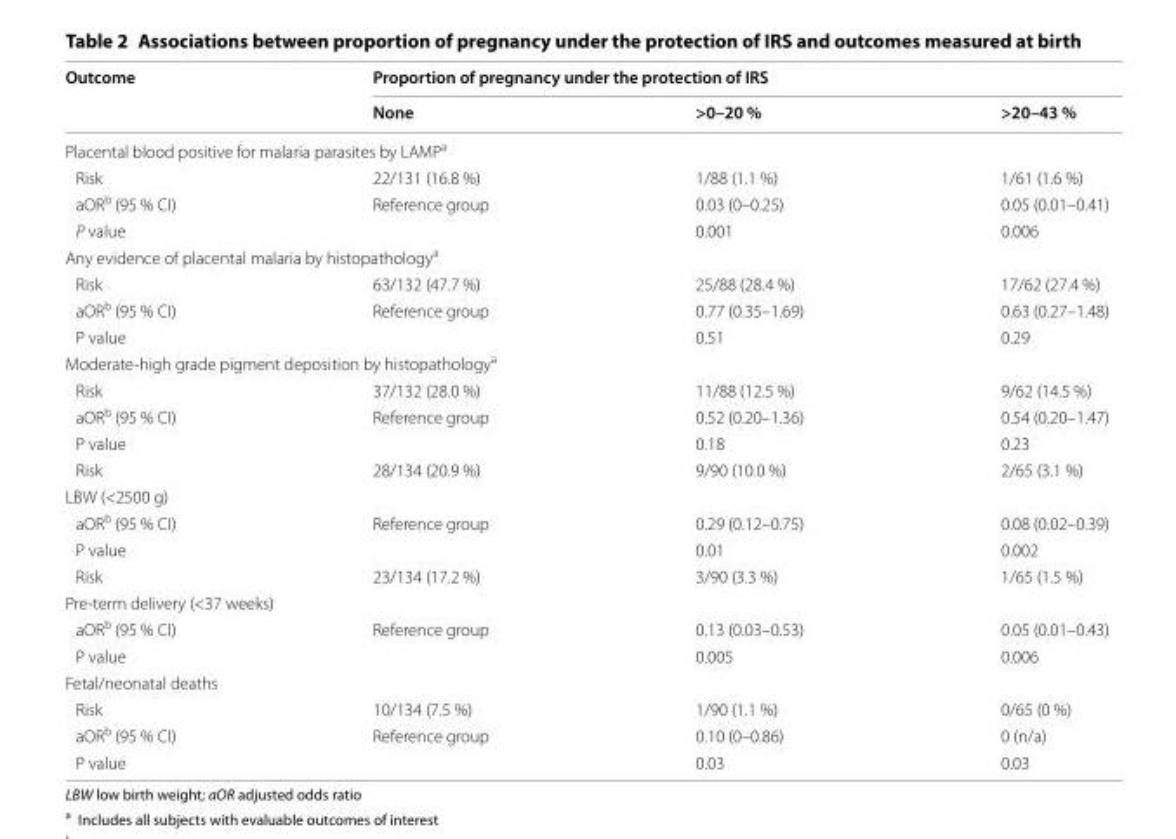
<table><thead><tr><td rowspan="2">Outcome</td><td colspan="3">Proportion of pregnancy under the protection of IRS</td></tr><tr><td>None</td><td>&gt;0–20 %</td><td>&gt;20–43 %</td></tr></thead><tbody><tr><td colspan="4">Placental blood positive for malaria parasites by LAMP<sup>a</sup></td></tr><tr><td>Risk</td><td>22/131 (16.8 %)</td><td>1/88 (1.1 %)</td><td>1/61 (1.6 %)</td></tr><tr><td>aOR<sup>b</sup> (95 % CI)</td><td rowspan="2">Reference group</td><td>0.03 (0–0.25)</td><td>0.05 (0.01–0.41)</td></tr><tr><td>P value</td><td>0.001</td><td>0.006</td></tr><tr><td colspan="4">Any evidence of placental malaria by histopathology<sup>a</sup></td></tr><tr><td>Risk</td><td>63/132 (47.7 %)</td><td>25/88 (28.4 %)</td><td>17/62 (27.4 %)</td></tr><tr><td>aOR<sup>b</sup> (95 % CI)</td><td rowspan="2">Reference group</td><td>0.77 (0.35–1.69)</td><td>0.63 (0.27–1.48)</td></tr><tr><td>P value</td><td>0.51</td><td>0.29</td></tr><tr><td colspan="4">Moderate-high grade pigment deposition by histopathology<sup>a</sup></td></tr><tr><td>Risk</td><td>37/132 (28.0 %)</td><td>11/88 (12.5 %)</td><td>9/62 (14.5 %)</td></tr><tr><td>aOR<sup>b</sup> (95 % CI)</td><td rowspan="2">Reference group</td><td>0.52 (0.20–1.36)</td><td>0.54 (0.20–1.47)</td></tr><tr><td>P value</td><td>0.18</td><td>0.23</td></tr><tr><td>Risk</td><td>28/134 (20.9 %)</td><td>9/90 (10.0 %)</td><td>2/65 (3.1 %)</td></tr><tr><td colspan="4">LBW (&lt;2500 g)</td></tr><tr><td>aOR<sup>b</sup> (95 % CI)</td><td rowspan="2">Reference group</td><td>0.29 (0.12–0.75)</td><td>0.08 (0.02–0.39)</td></tr><tr><td>P value</td><td>0.01</td><td>0.002</td></tr><tr><td>Risk</td><td>23/134 (17.2 %)</td><td>3/90 (3.3 %)</td><td>1/65 (1.5 %)</td></tr><tr><td colspan="4">Pre-term delivery (&lt;37 weeks)</td></tr><tr><td>aOR<sup>b</sup> (95 % CI)</td><td rowspan="2">Reference group</td><td>0.13 (0.03–0.53)</td><td>0.05 (0.01–0.43)</td></tr><tr><td>P value</td><td>0.005</td><td>0.006</td></tr><tr><td colspan="4">Fetal/neonatal deaths</td></tr><tr><td>Risk</td><td>10/134 (7.5 %)</td><td>1/90 (1.1 %)</td><td>0/65 (0 %)</td></tr><tr><td>aOR<sup>b</sup> (95 % CI)</td><td rowspan="2">Reference group</td><td>0.10 (0–0.86)</td><td>0 (n/a)</td></tr><tr><td>P value</td><td>0.03</td><td>0.03</td></tr></tbody></table>